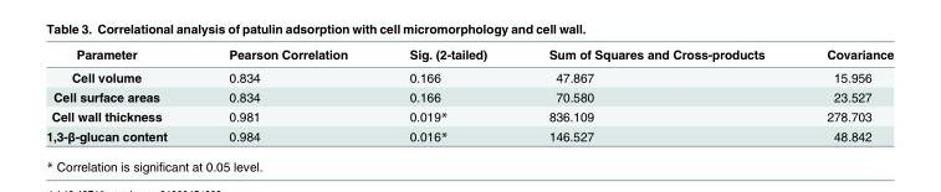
<table><thead><tr><td>Parameter</td><td>Pearson Correlation</td><td>Sig. (2-tailed)</td><td>Sum of Squares and Cross-products</td><td>Covariance</td></tr></thead><tbody><tr><td>Cell volume</td><td>0.834</td><td>0.166</td><td>47.867</td><td>15.956</td></tr><tr><td>Cell surface areas</td><td>0.834</td><td>0.166</td><td>70.580</td><td>23.527</td></tr><tr><td>Cell wall thickness</td><td>0.981</td><td>0.019*</td><td>836.109</td><td>278.703</td></tr><tr><td>1,3-β-glucan content</td><td>0.984</td><td>0.016*</td><td>146.527</td><td>48.842</td></tr></tbody></table>